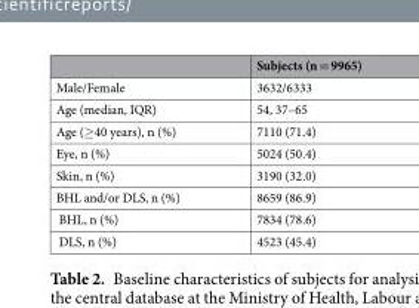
<table><thead><tr><td></td><td>Subjects (n = 9965)</td></tr></thead><tbody><tr><td>Male/Female</td><td>3632/6333</td></tr><tr><td>Age (median, IQR)</td><td>54, 37–65</td></tr><tr><td>Age (≥40 years), n (%)</td><td>7110 (71.4)</td></tr><tr><td>Eye, n (%)</td><td>5024 (50.4)</td></tr><tr><td>Skin, n (%)</td><td>3190 (32.0)</td></tr><tr><td>BHL and/or DLS, n (%)</td><td>8659 (86.9)</td></tr><tr><td>BHL, n (%)</td><td>7834 (78.6)</td></tr><tr><td>DLS, n (%)</td><td>4523 (45.4)</td></tr></tbody></table>